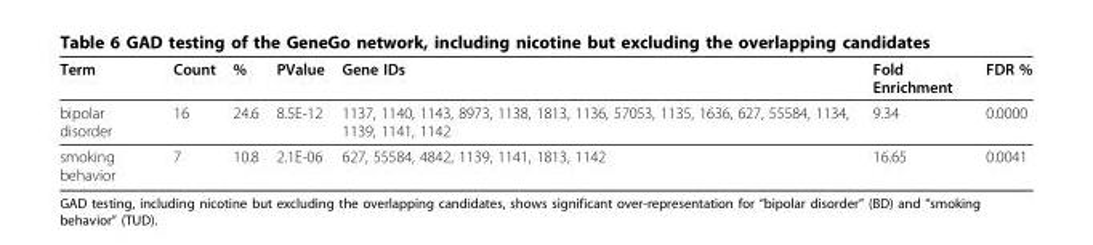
<table><thead><tr><td>Term</td><td>Count</td><td>%</td><td>PValue</td><td>Gene IDs</td><td>Fold Enrichment</td><td>FDR %</td></tr></thead><tbody><tr><td>bipolar disorder</td><td>16</td><td>24.6</td><td>8.5E-12</td><td>1137, 1140, 1143, 8973, 1138, 1813, 1136, 57053, 1135, 1636, 627, 55584, 1134, 1139, 1141, 1142</td><td>9.34</td><td>0.0000</td></tr><tr><td>smoking behavior</td><td>7</td><td>10.8</td><td>2.1E-06</td><td>627, 55584, 4842, 1139, 1141, 1813, 1142</td><td>16.65</td><td>0.0041</td></tr></tbody></table>